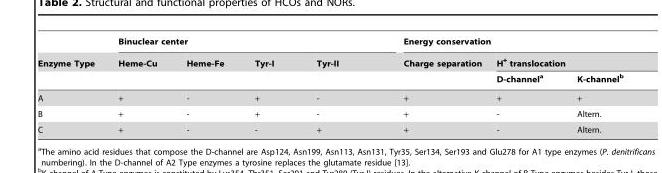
<table><thead><tr><td rowspan="3">Enzyme Type</td><td colspan="4">Binuclear center</td><td colspan="3">Energy conservation</td></tr><tr><td rowspan="2">Heme-Cu</td><td rowspan="2">Heme-Fe</td><td rowspan="2">Tyr-I</td><td rowspan="2">Tyr-II</td><td rowspan="2">Charge separation</td><td colspan="2">H<sup>+</sup> translocation</td></tr><tr><td>D-channel<sup>a</sup></td><td>K-channel<sup>b</sup></td></tr></thead><tbody><tr><td>A</td><td>+</td><td>-</td><td>+</td><td>-</td><td>+</td><td>+</td><td>+</td></tr><tr><td>B</td><td>+</td><td>-</td><td>+</td><td>-</td><td>+</td><td>-</td><td>Altern.</td></tr><tr><td>C</td><td>+</td><td>-</td><td>-</td><td>+</td><td>+</td><td>-</td><td>Altern.</td></tr></tbody></table>